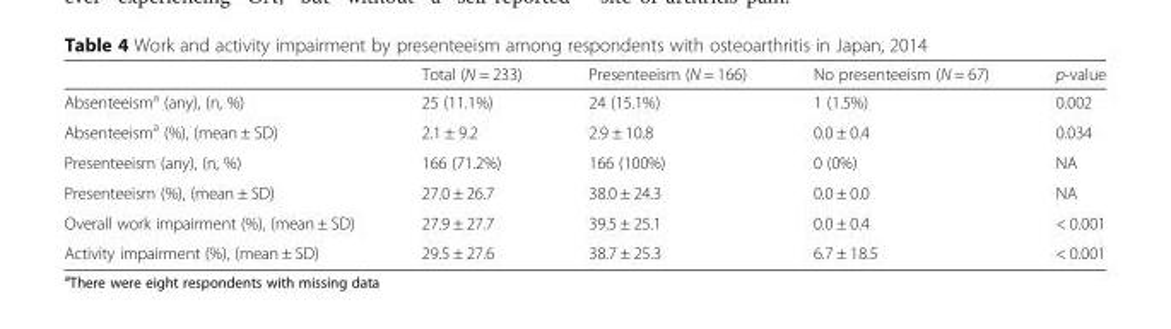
<table><thead><tr><td></td><td>Total (N = 233)</td><td>Presenteeism (N = 166)</td><td>No presenteeism (N = 67)</td><td>p-value</td></tr></thead><tbody><tr><td>Absenteeism<sup>a</sup> (any), (n, %)</td><td>25 (11.1%)</td><td>24 (15.1%)</td><td>1 (1.5%)</td><td>0.002</td></tr><tr><td>Absenteeism<sup>a</sup> (%), (mean ± SD)</td><td>2.1 ± 9.2</td><td>2.9 ± 10.8</td><td>0.0 ± 0.4</td><td>0.034</td></tr><tr><td>Presenteeism (any), (n, %)</td><td>166 (71.2%)</td><td>166 (100%)</td><td>0 (0%)</td><td>NA</td></tr><tr><td>Presenteeism (%), (mean ± SD)</td><td>27.0 ± 26.7</td><td>38.0 ± 24.3</td><td>0.0 ± 0.0</td><td>NA</td></tr><tr><td>Overall work impairment (%), (mean ± SD)</td><td>27.9 ± 27.7</td><td>39.5 ± 25.1</td><td>0.0 ± 0.4</td><td>&lt; 0.001</td></tr><tr><td>Activity impairment (%), (mean ± SD)</td><td>29.5 ± 27.6</td><td>38.7 ± 25.3</td><td>6.7 ± 18.5</td><td>&lt; 0.001</td></tr></tbody></table>